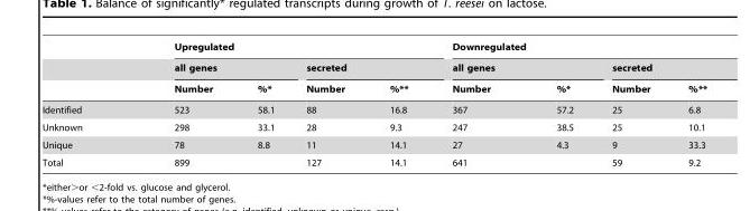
<table><thead><tr><td rowspan="3"></td><td colspan="4">Upregulated</td><td colspan="4">Downregulated</td></tr><tr><td colspan="2">all genes</td><td colspan="2">secreted</td><td colspan="2">all genes</td><td colspan="2">secreted</td></tr><tr><td>Number</td><td>%*</td><td>Number</td><td>%**</td><td>Number</td><td>%*</td><td>Number</td><td>%**</td></tr></thead><tbody><tr><td>Identified</td><td>523</td><td>58.1</td><td>88</td><td>16.8</td><td>367</td><td>57.2</td><td>25</td><td>6.8</td></tr><tr><td>Unknown</td><td>298</td><td>33.1</td><td>28</td><td>9.3</td><td>247</td><td>38.5</td><td>25</td><td>10.1</td></tr><tr><td>Unique</td><td>78</td><td>8.8</td><td>11</td><td>14.1</td><td>27</td><td>4.3</td><td>9</td><td>33.3</td></tr><tr><td>Total</td><td>899</td><td></td><td>127</td><td>14.1</td><td>641</td><td></td><td>59</td><td>9.2</td></tr></tbody></table>